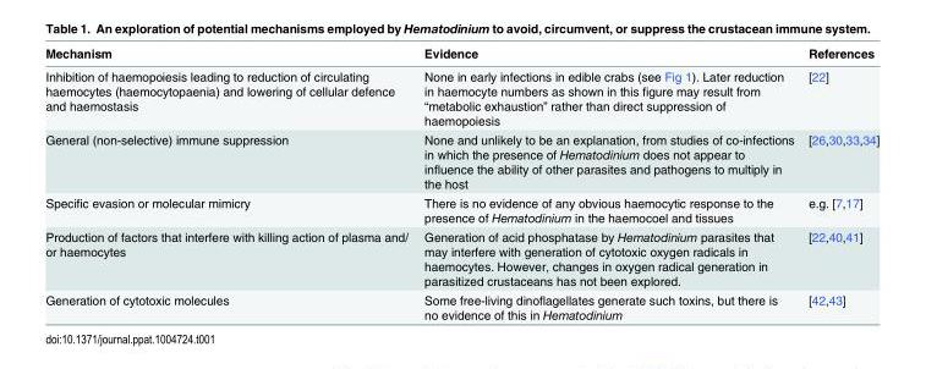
<table><thead><tr><td>Mechanism</td><td>Evidence</td><td>References</td></tr></thead><tbody><tr><td>Inhibition of haemopoiesis leading to reduction of circulating haemocytes (haemocytopaenia) and lowering of cellular defence and haemostasis</td><td>None in early infections in edible crabs (see Fig 1). Later reduction in haemocyte numbers as shown in this figure may result from “metabolic exhaustion” rather than direct suppression of haemopoiesis</td><td>[22]</td></tr><tr><td>General (non-selective) immune suppression</td><td>None and unlikely to be an explanation, from studies of co-infections in which the presence of Hematodinium does not appear to influence the ability of other parasites and pathogens to multiply in the host</td><td>[26,30,33,34]</td></tr><tr><td>Specific evasion or molecular mimicry</td><td>There is no evidence of any obvious haemocytic response to the presence of Hematodinium in the haemocoel and tissues</td><td>e.g. [7,17]</td></tr><tr><td>Production of factors that interfere with killing action of plasma and/ or haemocytes</td><td>Generation of acid phosphatase by Hematodinium parasites that may interfere with generation of cytotoxic oxygen radicals in haemocytes. However, changes in oxygen radical generation in parasitized crustaceans has not been explored.</td><td>[22,40,41]</td></tr><tr><td>Generation of cytotoxic molecules</td><td>Some free-living dinoflagellates generate such toxins, but there is no evidence of this in Hematodinium</td><td>[42,43]</td></tr></tbody></table>